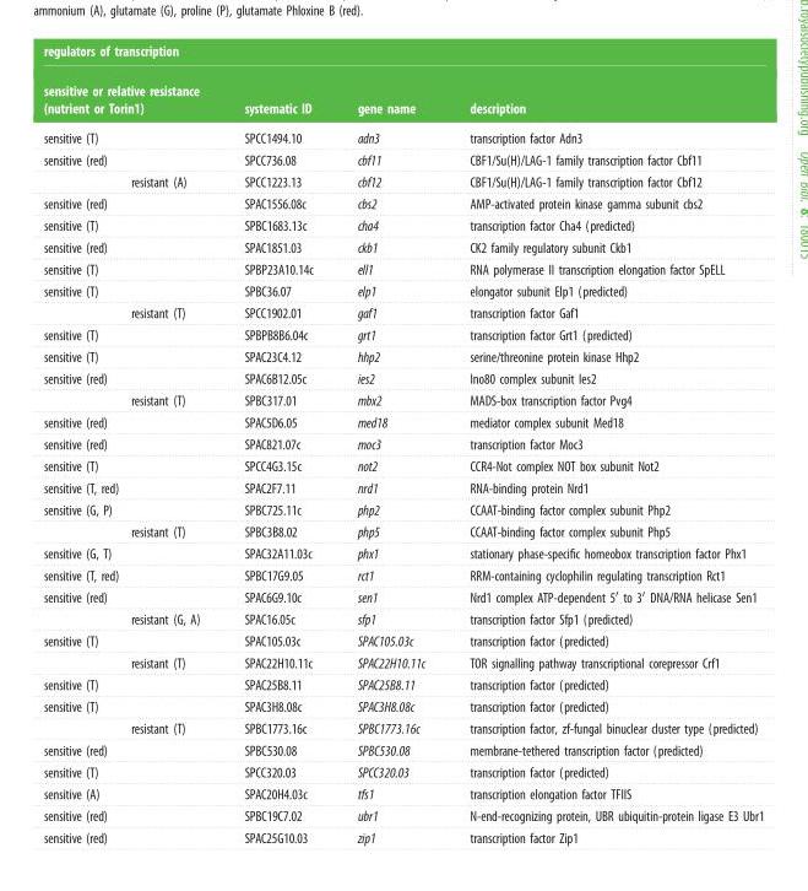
<table><thead><tr><td colspan="4">regulators of transcription</td></tr><tr><td>sensitive or relative resistance (nutrient or Torin1)</td><td>systematic ID</td><td>gene name</td><td>description</td></tr></thead><tbody><tr><td>sensitive (T)</td><td>SPCC1494.10</td><td>adn3</td><td>transcription factor Adn3</td></tr><tr><td>sensitive (red)</td><td>SPCC736.08</td><td>cbf11</td><td>CBF1/Su(H)/LAG-1 family transcription factor Cbf11</td></tr><tr><td>resistant (A)</td><td>SPCC1223.13</td><td>cbf12</td><td>CBF1/Su(H)/LAG-1 family transcription factor Cbf12</td></tr><tr><td>sensitive (red)</td><td>SPAC1556.08c</td><td>cbs2</td><td>AMP-activated protein kinase gamma subunit cbs2</td></tr><tr><td>sensitive (T)</td><td>SPBC1683.13c</td><td>cha4</td><td>transcription factor Cha4 (predicted)</td></tr><tr><td>sensitive (red)</td><td>SPAC1851.03</td><td>ckb1</td><td>CK2 family regulatory subunit Ckb1</td></tr><tr><td>sensitive (T)</td><td>SPBP23A10.14c</td><td>ell1</td><td>RNA polymerase II transcription elongation factor SpELL</td></tr><tr><td>sensitive (T)</td><td>SPBC36.07</td><td>elp1</td><td>elongator subunit Elp1 (predicted)</td></tr><tr><td>resistant (T)</td><td>SPCC1902.01</td><td>gaf1</td><td>transcription factor Gaf1</td></tr><tr><td>sensitive (T)</td><td>SPBPB8B6.04c</td><td>grt1</td><td>transcription factor Grt1 (predicted)</td></tr><tr><td>sensitive (T)</td><td>SPAC23C4.12</td><td>hhp2</td><td>serine/threonine protein kinase Hhp2</td></tr><tr><td>sensitive (red)</td><td>SPAC6B12.05c</td><td>ies2</td><td>Ino80 complex subunit Ies2</td></tr><tr><td>resistant (T)</td><td>SPBC317.01</td><td>mbx2</td><td>MADS-box transcription factor Pvg4</td></tr><tr><td>sensitive (red)</td><td>SPAC5D6.05</td><td>med18</td><td>mediator complex subunit Med18</td></tr><tr><td>sensitive (red)</td><td>SPAC821.07c</td><td>moc3</td><td>transcription factor Moc3</td></tr><tr><td>sensitive (T)</td><td>SPCC4G3.15c</td><td>not2</td><td>CCR4-Not complex NOT box subunit Not2</td></tr><tr><td>sensitive (T, red)</td><td>SPAC2F7.11</td><td>nrd1</td><td>RNA-binding protein Nrd1</td></tr><tr><td>sensitive (G, P)</td><td>SPBC725.11c</td><td>php2</td><td>CCAAT-binding factor complex subunit Php2</td></tr><tr><td>resistant (T)</td><td>SPBC3B8.02</td><td>php5</td><td>CCAAT-binding factor complex subunit Php5</td></tr><tr><td>sensitive (G, T)</td><td>SPAC32A11.03c</td><td>phx1</td><td>stationary phase-specific homeobox transcription factor Phx1</td></tr><tr><td>sensitive (T, red)</td><td>SPBC17G9.05</td><td>rct1</td><td>RRM-containing cyclophilin regulating transcription Rct1</td></tr><tr><td>sensitive (red)</td><td>SPAC6G9.10c</td><td>sen1</td><td>Nrd1 complex ATP-dependent 5′ to 3′ DNA/RNA helicase Sen1</td></tr><tr><td>resistant (G, A)</td><td>SPAC16.05c</td><td>sfp1</td><td>transcription factor Sfp1 (predicted)</td></tr><tr><td>sensitive (T)</td><td>SPAC105.03c</td><td>SPAC105.03c</td><td>transcription factor (predicted)</td></tr><tr><td>resistant (T)</td><td>SPAC22H10.11c</td><td>SPAC22H10.11c</td><td>TOR signalling pathway transcriptional corepressor Crf1</td></tr><tr><td>sensitive (T)</td><td>SPAC25B8.11</td><td>SPAC25B8.11</td><td>transcription factor (predicted)</td></tr><tr><td>sensitive (T)</td><td>SPAC3H8.08c</td><td>SPAC3H8.08c</td><td>transcription factor (predicted)</td></tr><tr><td>resistant (T)</td><td>SPBC1773.16c</td><td>SPBC1773.16c</td><td>transcription factor, zf-fungal binuclear cluster type (predicted)</td></tr><tr><td>sensitive (red)</td><td>SPBC530.08</td><td>SPBC530.08</td><td>membrane-tethered transcription factor (predicted)</td></tr><tr><td>sensitive (T)</td><td>SPCC320.03</td><td>SPCC320.03</td><td>transcription factor (predicted)</td></tr><tr><td>sensitive (A)</td><td>SPAC20H4.03c</td><td>tfs1</td><td>transcription elongation factor TFIIS</td></tr><tr><td>sensitive (red)</td><td>SPBC19C7.02</td><td>ubr1</td><td>N-end-recognizing protein, UBR ubiquitin-protein ligase E3 Ubr1</td></tr><tr><td>sensitive (red)</td><td>SPAC25G10.03</td><td>zip1</td><td>transcription factor Zip1</td></tr></tbody></table>